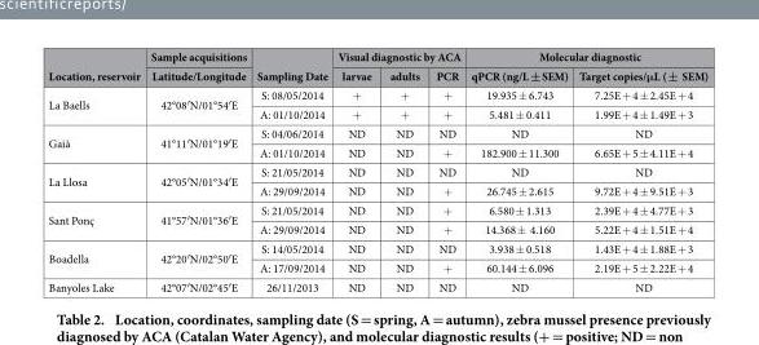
<table><thead><tr><td rowspan="2">Location, reservoir</td><td rowspan="2">Sample acquisitions Latitude/Longitude</td><td rowspan="2">Sampling Date</td><td colspan="3">Visual diagnostic by ACA</td><td colspan="2">Molecular diagnostic</td></tr><tr><td>larvae</td><td>adults</td><td>PCR</td><td>qPCR (ng/L ± SEM)</td><td>Target copies/μL ( ± SEM)</td></tr></thead><tbody><tr><td rowspan="2">La Baells</td><td rowspan="2">42°08′ N/01°54′ E</td><td>S: 08/05/2014</td><td>+</td><td>+</td><td>+</td><td>19.935 ± 6.743</td><td>7.25E + 4 ± 2.45E + 4</td></tr><tr><td>A: 01/10/2014</td><td>+</td><td>+</td><td>+</td><td>5.481 ± 0.411</td><td>1.99E + 4 ± 1.49E + 3</td></tr><tr><td rowspan="2">Gaià</td><td rowspan="2">41°11′ N/01°19′ E</td><td>S: 04/06/2014</td><td>ND</td><td>ND</td><td>ND</td><td>ND</td><td>ND</td></tr><tr><td>A: 01/10/2014</td><td>ND</td><td>ND</td><td>+</td><td>182.900 ± 11.300</td><td>6.65E + 5 ± 4.11E + 4</td></tr><tr><td rowspan="2">La Llosa</td><td rowspan="2">42°05′ N/01°34′ E</td><td>S: 21/05/2014</td><td>ND</td><td>ND</td><td>ND</td><td>ND</td><td>ND</td></tr><tr><td>A: 29/09/2014</td><td>ND</td><td>ND</td><td>+</td><td>26.745 ± 2.615</td><td>9.72E + 4 ± 9.51E + 3</td></tr><tr><td rowspan="2">Sant Ponç</td><td rowspan="2">41°57′ N/01°36′ E</td><td>S: 21/05/2014</td><td>ND</td><td>ND</td><td>+</td><td>6.580 ± 1.313</td><td>2.39E + 4 ± 4.77E + 3</td></tr><tr><td>A: 29/09/2014</td><td>ND</td><td>ND</td><td>+</td><td>14.368 ± 4.160</td><td>5.22E + 4 ± 1.51E + 4</td></tr><tr><td rowspan="2">Boadella</td><td rowspan="2">42°20′ N/02°50′ E</td><td>S: 14/05/2014</td><td>ND</td><td>ND</td><td>ND</td><td>3.938 ± 0.518</td><td>1.43E + 4 ± 1.88E + 3</td></tr><tr><td>A: 17/09/2014</td><td>ND</td><td>ND</td><td>+</td><td>60.144 ± 6.096</td><td>2.19E + 5 ± 2.22E + 4</td></tr><tr><td>Banyoles Lake</td><td>42°07′ N/02°45′ E</td><td>26/11/2013</td><td>ND</td><td>ND</td><td>ND</td><td>ND</td><td>ND</td></tr></tbody></table>